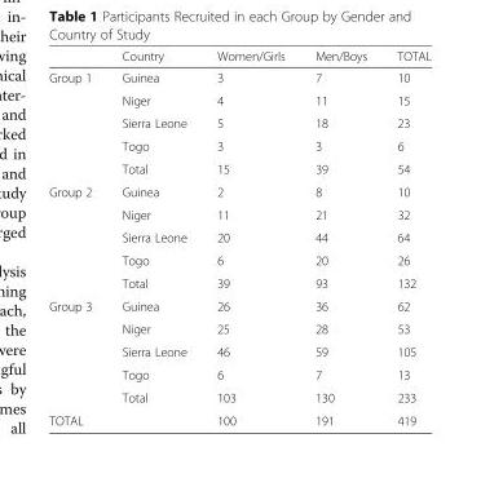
<table><thead><tr><td></td><td>Country</td><td>Women/Girls</td><td>Men/Boys</td><td>TOTAL</td></tr></thead><tbody><tr><td rowspan="5">Group 1</td><td>Guinea</td><td>3</td><td>7</td><td>10</td></tr><tr><td>Niger</td><td>4</td><td>11</td><td>15</td></tr><tr><td>Sierra Leone</td><td>5</td><td>18</td><td>23</td></tr><tr><td>Togo</td><td>3</td><td>3</td><td>6</td></tr><tr><td>Total</td><td>15</td><td>39</td><td>54</td></tr><tr><td rowspan="5">Group 2</td><td>Guinea</td><td>2</td><td>8</td><td>10</td></tr><tr><td>Niger</td><td>11</td><td>21</td><td>32</td></tr><tr><td>Sierra Leone</td><td>20</td><td>44</td><td>64</td></tr><tr><td>Togo</td><td>6</td><td>20</td><td>26</td></tr><tr><td>Total</td><td>39</td><td>93</td><td>132</td></tr><tr><td rowspan="5">Group 3</td><td>Guinea</td><td>26</td><td>36</td><td>62</td></tr><tr><td>Niger</td><td>25</td><td>28</td><td>53</td></tr><tr><td>Sierra Leone</td><td>46</td><td>59</td><td>105</td></tr><tr><td>Togo</td><td>6</td><td>7</td><td>13</td></tr><tr><td>Total</td><td>103</td><td>130</td><td>233</td></tr><tr><td>TOTAL</td><td></td><td>100</td><td>191</td><td>419</td></tr></tbody></table>